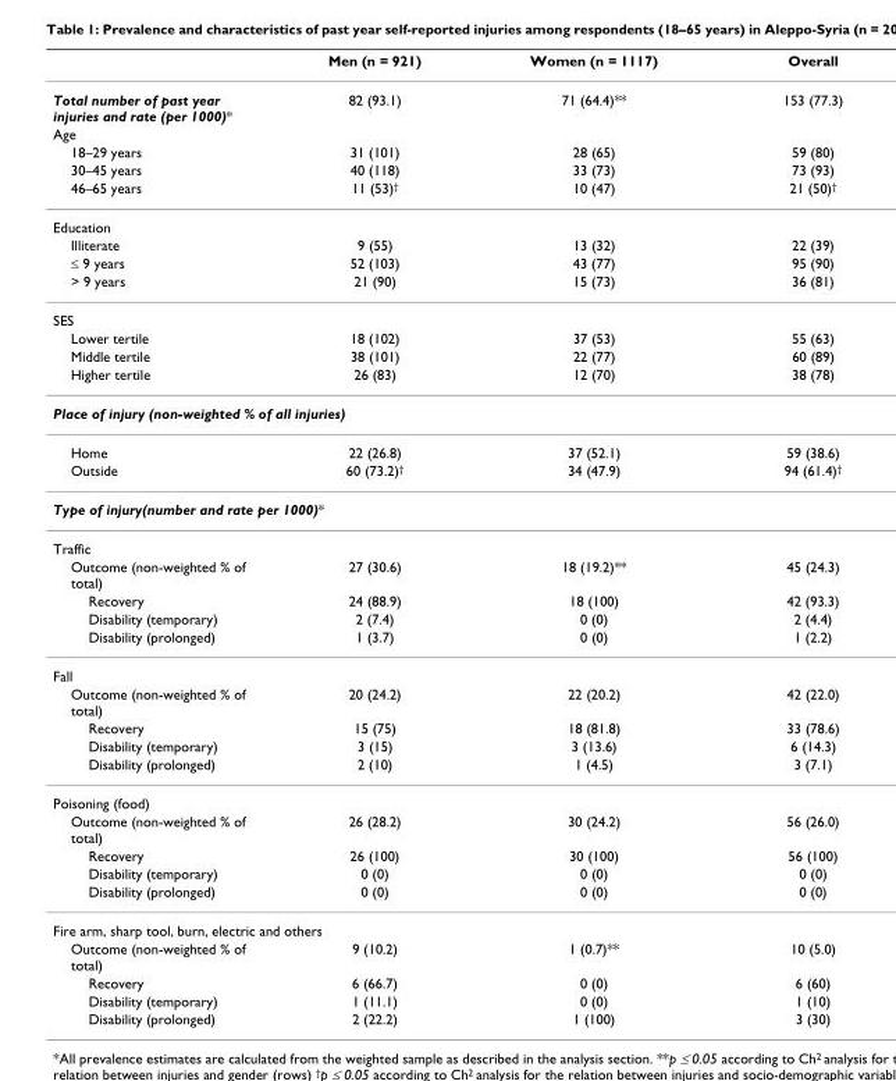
<table><thead><tr><td></td><td>Men (n = 921)</td><td>Women (n = 1117)</td><td>Overall</td></tr></thead><tbody><tr><td>Total number of past year injuries and rate (per 1000)*</td><td>82 (93.1)</td><td>71 (64.4)**</td><td>153 (77.3)</td></tr><tr><td colspan="4">Age</td></tr><tr><td>18–29 years</td><td>31 (101)</td><td>28 (65)</td><td>59 (80)</td></tr><tr><td>30–45 years</td><td>40 (118)</td><td>33 (73)</td><td>73 (93)</td></tr><tr><td>46–65 years</td><td>11 (53)†</td><td>10 (47)</td><td>21 (50)†</td></tr><tr><td colspan="4">Education</td></tr><tr><td>Illiterate</td><td>9 (55)</td><td>13 (32)</td><td>22 (39)</td></tr><tr><td>≤ 9 years</td><td>52 (103)</td><td>43 (77)</td><td>95 (90)</td></tr><tr><td>&gt; 9 years</td><td>21 (90)</td><td>15 (73)</td><td>36 (81)</td></tr><tr><td colspan="4">SES</td></tr><tr><td>Lower tertile</td><td>18 (102)</td><td>37 (53)</td><td>55 (63)</td></tr><tr><td>Middle tertile</td><td>38 (101)</td><td>22 (77)</td><td>60 (89)</td></tr><tr><td>Higher tertile</td><td>26 (83)</td><td>12 (70)</td><td>38 (78)</td></tr><tr><td colspan="4">Place of injury (non-weighted % of all injuries)</td></tr><tr><td>Home</td><td>22 (26.8)</td><td>37 (52.1)</td><td>59 (38.6)</td></tr><tr><td>Outside</td><td>60 (73.2)†</td><td>34 (47.9)</td><td>94 (61.4)†</td></tr><tr><td colspan="4">Type of injury(number and rate per 1000)*</td></tr><tr><td colspan="4">Traffic</td></tr><tr><td>Outcome (non-weighted % of total)</td><td>27 (30.6)</td><td>18 (19.2)**</td><td>45 (24.3)</td></tr><tr><td>Recovery</td><td>24 (88.9)</td><td>18 (100)</td><td>42 (93.3)</td></tr><tr><td>Disability (temporary)</td><td>2 (7.4)</td><td>0 (0)</td><td>2 (4.4)</td></tr><tr><td>Disability (prolonged)</td><td>1 (3.7)</td><td>0 (0)</td><td>1 (2.2)</td></tr><tr><td colspan="4">Fall</td></tr><tr><td>Outcome (non-weighted % of total)</td><td>20 (24.2)</td><td>22 (20.2)</td><td>42 (22.0)</td></tr><tr><td>Recovery</td><td>15 (75)</td><td>18 (81.8)</td><td>33 (78.6)</td></tr><tr><td>Disability (temporary)</td><td>3 (15)</td><td>3 (13.6)</td><td>6 (14.3)</td></tr><tr><td>Disability (prolonged)</td><td>2 (10)</td><td>1 (4.5)</td><td>3 (7.1)</td></tr><tr><td colspan="4">Poisoning (food)</td></tr><tr><td>Outcome (non-weighted % of total)</td><td>26 (28.2)</td><td>30 (24.2)</td><td>56 (26.0)</td></tr><tr><td>Recovery</td><td>26 (100)</td><td>30 (100)</td><td>56 (100)</td></tr><tr><td>Disability (temporary)</td><td>0 (0)</td><td>0 (0)</td><td>0 (0)</td></tr><tr><td>Disability (prolonged)</td><td>0 (0)</td><td>0 (0)</td><td>0 (0)</td></tr><tr><td colspan="4">Fire arm, sharp tool, burn, electric and others</td></tr><tr><td>Outcome (non-weighted % of total)</td><td>9 (10.2)</td><td>1 (0.7)**</td><td>10 (5.0)</td></tr><tr><td>Recovery</td><td>6 (66.7)</td><td>0 (0)</td><td>6 (60)</td></tr><tr><td>Disability (temporary)</td><td>1 (11.1)</td><td>0 (0)</td><td>1 (10)</td></tr><tr><td>Disability (prolonged)</td><td>2 (22.2)</td><td>1 (100)</td><td>3 (30)</td></tr></tbody></table>